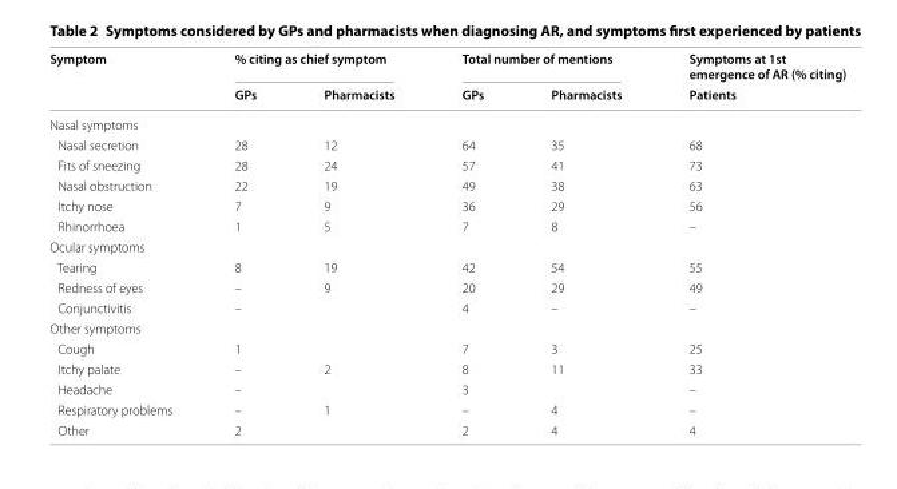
<table><thead><tr><td rowspan="2">Symptom</td><td colspan="2">% citing as chief symptom</td><td colspan="2">Total number of mentions</td><td rowspan="2">Symptoms at 1st emergence of AR (% citing) Patients</td></tr><tr><td>GPs</td><td>Pharmacists</td><td>GPs</td><td>Pharmacists</td></tr></thead><tbody><tr><td colspan="6">Nasal symptoms</td></tr><tr><td>Nasal secretion</td><td>28</td><td>12</td><td>64</td><td>35</td><td>68</td></tr><tr><td>Fits of sneezing</td><td>28</td><td>24</td><td>57</td><td>41</td><td>73</td></tr><tr><td>Nasal obstruction</td><td>22</td><td>19</td><td>49</td><td>38</td><td>63</td></tr><tr><td>Itchy nose</td><td>7</td><td>9</td><td>36</td><td>29</td><td>56</td></tr><tr><td>Rhinorrhoea</td><td>1</td><td>5</td><td>7</td><td>8</td><td>–</td></tr><tr><td colspan="6">Ocular symptoms</td></tr><tr><td>Tearing</td><td>8</td><td>19</td><td>42</td><td>54</td><td>55</td></tr><tr><td>Redness of eyes</td><td>–</td><td>9</td><td>20</td><td>29</td><td>49</td></tr><tr><td>Conjunctivitis</td><td>–</td><td></td><td>4</td><td>–</td><td>–</td></tr><tr><td colspan="6">Other symptoms</td></tr><tr><td>Cough</td><td>1</td><td></td><td>7</td><td>3</td><td>25</td></tr><tr><td>Itchy palate</td><td>–</td><td>2</td><td>8</td><td>11</td><td>33</td></tr><tr><td>Headache</td><td>–</td><td></td><td>3</td><td></td><td>–</td></tr><tr><td>Respiratory problems</td><td>–</td><td>1</td><td>–</td><td>4</td><td>–</td></tr><tr><td>Other</td><td>2</td><td></td><td>2</td><td>4</td><td>4</td></tr></tbody></table>